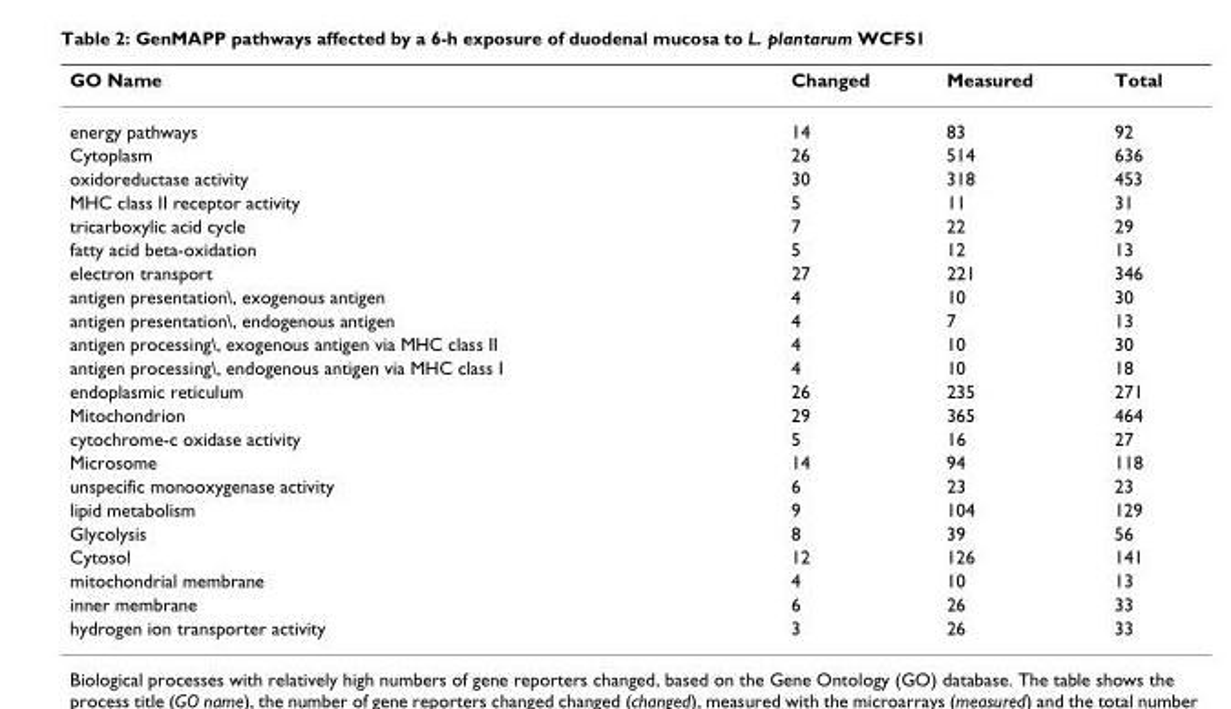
<table><thead><tr><td>GO Name</td><td>Changed</td><td>Measured</td><td>Total</td></tr></thead><tbody><tr><td>energy pathways</td><td>14</td><td>83</td><td>92</td></tr><tr><td>Cytoplasm</td><td>26</td><td>514</td><td>636</td></tr><tr><td>oxidoreductase activity</td><td>30</td><td>318</td><td>453</td></tr><tr><td>MHC class II receptor activity</td><td>5</td><td>11</td><td>31</td></tr><tr><td>tricarboxylic acid cycle</td><td>7</td><td>22</td><td>29</td></tr><tr><td>fatty acid beta-oxidation</td><td>5</td><td>12</td><td>13</td></tr><tr><td>electron transport</td><td>27</td><td>221</td><td>346</td></tr><tr><td>antigen presentation\, exogenous antigen</td><td>4</td><td>10</td><td>30</td></tr><tr><td>antigen presentation\, endogenous antigen</td><td>4</td><td>7</td><td>13</td></tr><tr><td>antigen processing\, exogenous antigen via MHC class II</td><td>4</td><td>10</td><td>30</td></tr><tr><td>antigen processing\, endogenous antigen via MHC class I</td><td>4</td><td>10</td><td>18</td></tr><tr><td>endoplasmic reticulum</td><td>26</td><td>235</td><td>271</td></tr><tr><td>Mitochondrion</td><td>29</td><td>365</td><td>464</td></tr><tr><td>cytochrome-c oxidase activity</td><td>5</td><td>16</td><td>27</td></tr><tr><td>Microsome</td><td>14</td><td>94</td><td>118</td></tr><tr><td>unspecific monooxygenase activity</td><td>6</td><td>23</td><td>23</td></tr><tr><td>lipid metabolism</td><td>9</td><td>104</td><td>129</td></tr><tr><td>Glycolysis</td><td>8</td><td>39</td><td>56</td></tr><tr><td>Cytosol</td><td>12</td><td>126</td><td>141</td></tr><tr><td>mitochondrial membrane</td><td>4</td><td>10</td><td>13</td></tr><tr><td>inner membrane</td><td>6</td><td>26</td><td>33</td></tr><tr><td>hydrogen ion transporter activity</td><td>3</td><td>26</td><td>33</td></tr></tbody></table>